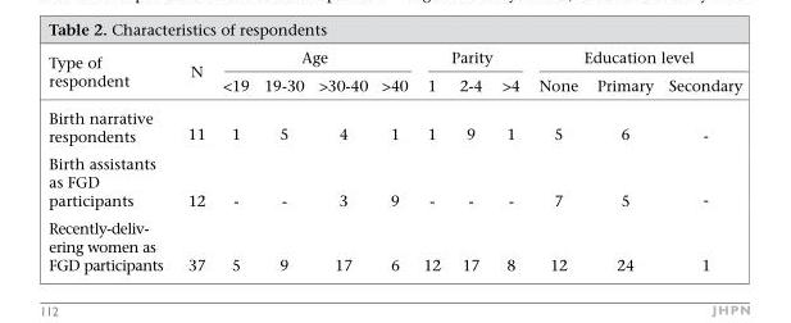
<table><thead><tr><td rowspan="2">Type of respondent</td><td rowspan="2">N</td><td colspan="4">Age</td><td colspan="3">Parity</td><td colspan="3">Education level</td></tr><tr><td>&lt;19</td><td>19-30</td><td>&gt;30-40</td><td>&gt;40</td><td>1</td><td>2-4</td><td>&gt;4</td><td>None</td><td>Primary</td><td>Secondary</td></tr></thead><tbody><tr><td>Birth narrative respondents</td><td>11</td><td>1</td><td>5</td><td>4</td><td>1</td><td>1</td><td>9</td><td>1</td><td>5</td><td>6</td><td>-</td></tr><tr><td>Birth assistants as FGD participants</td><td>12</td><td>-</td><td>-</td><td>3</td><td>9</td><td>-</td><td>-</td><td>-</td><td>7</td><td>5</td><td>-</td></tr><tr><td>Recently-deliv- ering women as FGD participants</td><td>37</td><td>5</td><td>9</td><td>17</td><td>6</td><td>12</td><td>17</td><td>8</td><td>12</td><td>24</td><td>1</td></tr></tbody></table>